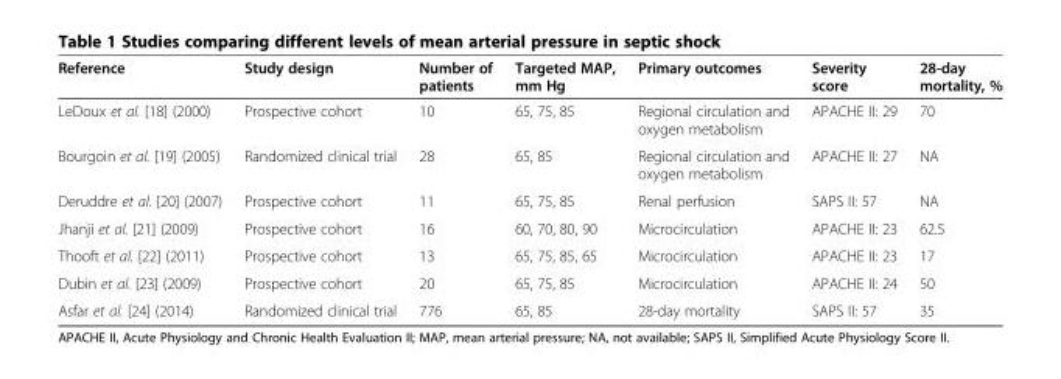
<table><thead><tr><td>Reference</td><td>Study design</td><td>Number of patients</td><td>Targeted MAP, mm Hg</td><td>Primary outcomes</td><td>Severity score</td><td>28-day mortality, %</td></tr></thead><tbody><tr><td>LeDoux et al. [18] (2000)</td><td>Prospective cohort</td><td>10</td><td>65, 75, 85</td><td>Regional circulation and oxygen metabolism</td><td>APACHE II: 29</td><td>70</td></tr><tr><td>Bourgoin et al. [19] (2005)</td><td>Randomized clinical trial</td><td>28</td><td>65, 85</td><td>Regional circulation and oxygen metabolism</td><td>APACHE II: 27</td><td>NA</td></tr><tr><td>Deruddre et al. [20] (2007)</td><td>Prospective cohort</td><td>11</td><td>65, 75, 85</td><td>Renal perfusion</td><td>SAPS II: 57</td><td>NA</td></tr><tr><td>Jhanji et al. [21] (2009)</td><td>Prospective cohort</td><td>16</td><td>60, 70, 80, 90</td><td>Microcirculation</td><td>APACHE II: 23</td><td>62.5</td></tr><tr><td>Thooft et al. [22] (2011)</td><td>Prospective cohort</td><td>13</td><td>65, 75, 85, 65</td><td>Microcirculation</td><td>APACHE II: 23</td><td>17</td></tr><tr><td>Dubin et al. [23] (2009)</td><td>Prospective cohort</td><td>20</td><td>65, 75, 85</td><td>Microcirculation</td><td>APACHE II: 24</td><td>50</td></tr><tr><td>Asfar et al. [24] (2014)</td><td>Randomized clinical trial</td><td>776</td><td>65, 85</td><td>28-day mortality</td><td>SAPS II: 57</td><td>35</td></tr></tbody></table>